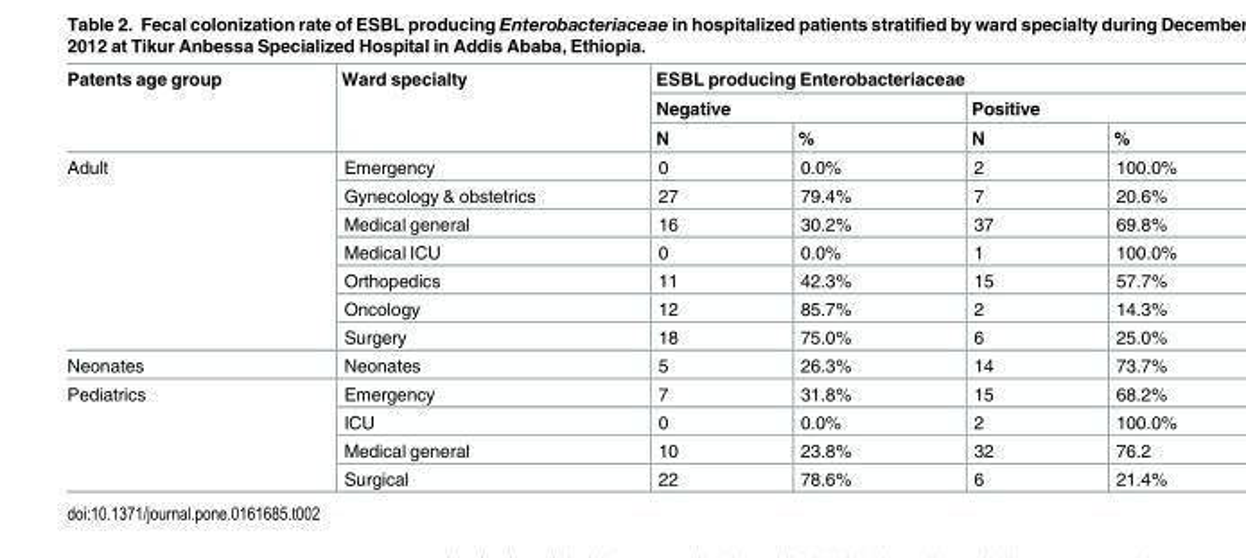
<table><thead><tr><td rowspan="3">Patents age group</td><td rowspan="3">Ward specialty</td><td colspan="4">ESBL producing Enterobacteriaceae</td></tr><tr><td colspan="2">Negative</td><td colspan="2">Positive</td></tr><tr><td>N</td><td>%</td><td>N</td><td>%</td></tr></thead><tbody><tr><td rowspan="7">Adult</td><td>Emergency</td><td>0</td><td>0.0%</td><td>2</td><td>100.0%</td></tr><tr><td>Gynecology &amp; obstetrics</td><td>27</td><td>79.4%</td><td>7</td><td>20.6%</td></tr><tr><td>Medical general</td><td>16</td><td>30.2%</td><td>37</td><td>69.8%</td></tr><tr><td>Medical ICU</td><td>0</td><td>0.0%</td><td>1</td><td>100.0%</td></tr><tr><td>Orthopedics</td><td>11</td><td>42.3%</td><td>15</td><td>57.7%</td></tr><tr><td>Oncology</td><td>12</td><td>85.7%</td><td>2</td><td>14.3%</td></tr><tr><td>Surgery</td><td>18</td><td>75.0%</td><td>6</td><td>25.0%</td></tr><tr><td>Neonates</td><td>Neonates</td><td>5</td><td>26.3%</td><td>14</td><td>73.7%</td></tr><tr><td rowspan="4">Pediatrics</td><td>Emergency</td><td>7</td><td>31.8%</td><td>15</td><td>68.2%</td></tr><tr><td>ICU</td><td>0</td><td>0.0%</td><td>2</td><td>100.0%</td></tr><tr><td>Medical general</td><td>10</td><td>23.8%</td><td>32</td><td>76.2</td></tr><tr><td>Surgical</td><td>22</td><td>78.6%</td><td>6</td><td>21.4%</td></tr></tbody></table>